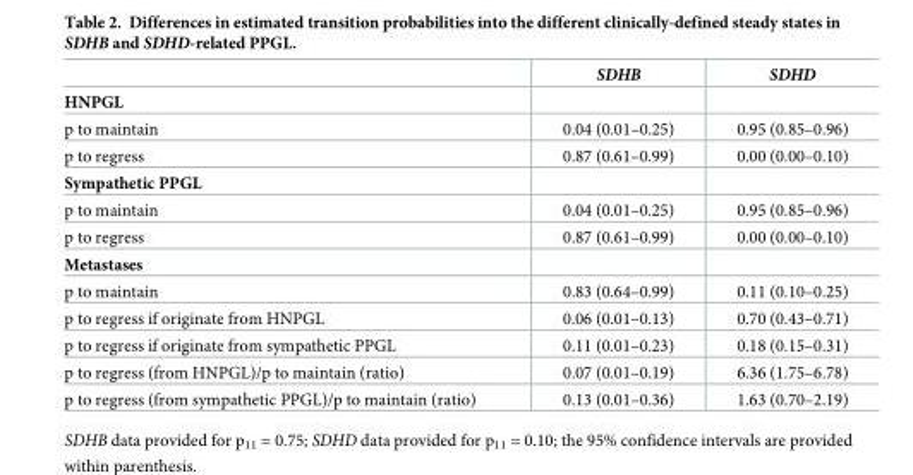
<table><thead><tr><td></td><td>SDHB</td><td>SDHD</td></tr></thead><tbody><tr><td colspan="3">HNPGL</td></tr><tr><td>p to maintain</td><td>0.04 (0.01–0.25)</td><td>0.95 (0.85–0.96)</td></tr><tr><td>p to regress</td><td>0.87 (0.61–0.99)</td><td>0.00 (0.00–0.10)</td></tr><tr><td colspan="3">Sympathetic PPGL</td></tr><tr><td>p to maintain</td><td>0.04 (0.01–0.25)</td><td>0.95 (0.85–0.96)</td></tr><tr><td>p to regress</td><td>0.87 (0.61–0.99)</td><td>0.00 (0.00–0.10)</td></tr><tr><td colspan="3">Metastases</td></tr><tr><td>p to maintain</td><td>0.83 (0.64–0.99)</td><td>0.11 (0.10–0.25)</td></tr><tr><td>p to regress if originate from HNPGL</td><td>0.06 (0.01–0.13)</td><td>0.70 (0.43–0.71)</td></tr><tr><td>p to regress if originate from sympathetic PPGL</td><td>0.11 (0.01–0.23)</td><td>0.18 (0.15–0.31)</td></tr><tr><td>p to regress (from HNPGL)/p to maintain (ratio)</td><td>0.07 (0.01–0.19)</td><td>6.36 (1.75–6.78)</td></tr><tr><td>p to regress (from sympathetic PPGL)/p to maintain (ratio)</td><td>0.13 (0.01–0.36)</td><td>1.63 (0.70–2.19)</td></tr></tbody></table>